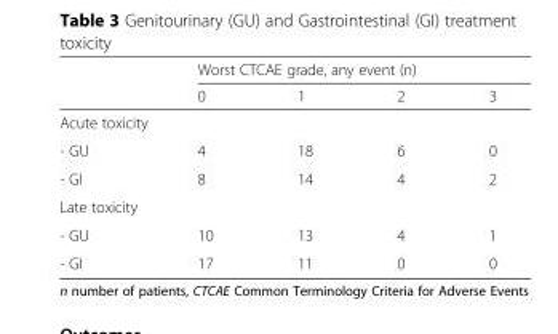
<table><thead><tr><td rowspan="2"></td><td colspan="4">Worst CTCAE grade, any event (n)</td></tr><tr><td>0</td><td>1</td><td>2</td><td>3</td></tr></thead><tbody><tr><td colspan="5">Acute toxicity</td></tr><tr><td>- GU</td><td>4</td><td>18</td><td>6</td><td>0</td></tr><tr><td>- GI</td><td>8</td><td>14</td><td>4</td><td>2</td></tr><tr><td colspan="5">Late toxicity</td></tr><tr><td>- GU</td><td>10</td><td>13</td><td>4</td><td>1</td></tr><tr><td>- GI</td><td>17</td><td>11</td><td>0</td><td>0</td></tr></tbody></table>